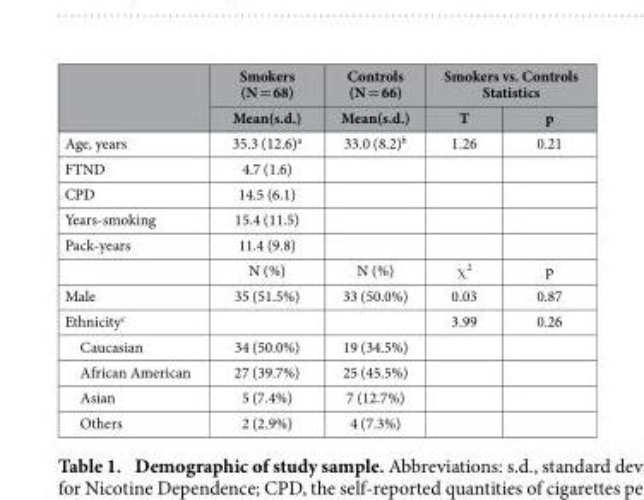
<table><thead><tr><td rowspan="2"></td><td rowspan="2">Smokers (N = 68) Mean(s.d.)</td><td rowspan="2">Controls (N = 66) Mean(s.d.)</td><td colspan="2">Smokers vs. Controls Statistics</td></tr><tr><td>T</td><td>p</td></tr></thead><tbody><tr><td>Age, years</td><td>35.3 (12.6)<sup>a</sup></td><td>33.0 (8.2)<sup>b</sup></td><td>1.26</td><td>0.21</td></tr><tr><td>FTND</td><td>4.7 (1.6)</td><td></td><td></td><td></td></tr><tr><td>CPD</td><td>14.5 (6.1)</td><td></td><td></td><td></td></tr><tr><td>Years-smoking</td><td>15.4 (11.5)</td><td></td><td></td><td></td></tr><tr><td rowspan="2">Pack-years</td><td>11.4 (9.8)</td><td></td><td></td><td></td></tr><tr><td>N (%)</td><td>N (%)</td><td>χ <sup>2</sup></td><td>p</td></tr><tr><td>Male</td><td>35 (51.5%)</td><td>33 (50.0%)</td><td>0.03</td><td>0.87</td></tr><tr><td>Ethnicity<sup>c</sup></td><td></td><td></td><td>3.99</td><td>0.26</td></tr><tr><td>Caucasian</td><td>34 (50.0%)</td><td>19 (34.5%)</td><td></td><td></td></tr><tr><td>African American</td><td>27 (39.7%)</td><td>25 (45.5%)</td><td></td><td></td></tr><tr><td>Asian</td><td>5 (7.4%)</td><td>7 (12.7%)</td><td></td><td></td></tr><tr><td>Others</td><td>2 (2.9%)</td><td>4 (7.3%)</td><td></td><td></td></tr></tbody></table>